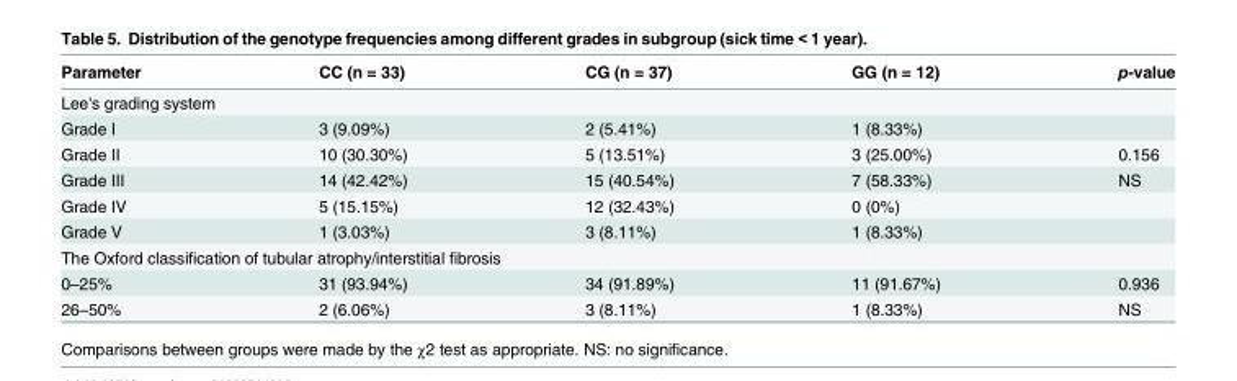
<table><thead><tr><td>Parameter</td><td>CC (n = 33)</td><td>CG (n = 37)</td><td>GG (n = 12)</td><td>p-value</td></tr></thead><tbody><tr><td colspan="5">Lee&#x27;s grading system</td></tr><tr><td>Grade I</td><td>3 (9.09%)</td><td>2 (5.41%)</td><td>1 (8.33%)</td><td></td></tr><tr><td>Grade II</td><td>10 (30.30%)</td><td>5 (13.51%)</td><td>3 (25.00%)</td><td>0.156</td></tr><tr><td>Grade III</td><td>14 (42.42%)</td><td>15 (40.54%)</td><td>7 (58.33%)</td><td>NS</td></tr><tr><td>Grade IV</td><td>5 (15.15%)</td><td>12 (32.43%)</td><td>0 (0%)</td><td></td></tr><tr><td>Grade V</td><td>1 (3.03%)</td><td>3 (8.11%)</td><td>1 (8.33%)</td><td></td></tr><tr><td colspan="5">The Oxford classification of tubular atrophy/interstitial fibrosis</td></tr><tr><td>0–25%</td><td>31 (93.94%)</td><td>34 (91.89%)</td><td>11 (91.67%)</td><td>0.936</td></tr><tr><td>26–50%</td><td>2 (6.06%)</td><td>3 (8.11%)</td><td>1 (8.33%)</td><td>NS</td></tr></tbody></table>